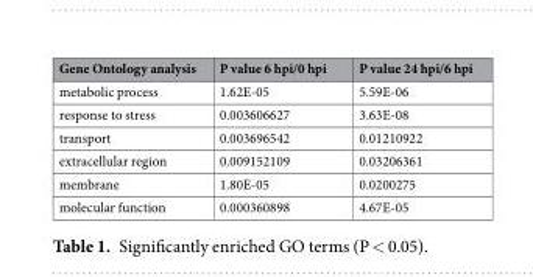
<table><thead><tr><td>Gene Ontology analysis</td><td>P value 6 hpi/0 hpi</td><td>P value 24 hpi/6 hpi</td></tr></thead><tbody><tr><td>metabolic process</td><td>1.62E-05</td><td>5.59E-06</td></tr><tr><td>response to stress</td><td>0.003606627</td><td>3.63E-08</td></tr><tr><td>transport</td><td>0.003696542</td><td>0.01210922</td></tr><tr><td>extracellular region</td><td>0.009152109</td><td>0.03206361</td></tr><tr><td>membrane</td><td>1.80E-05</td><td>0.0200275</td></tr><tr><td>molecular function</td><td>0.000360898</td><td>4.67E-05</td></tr></tbody></table>